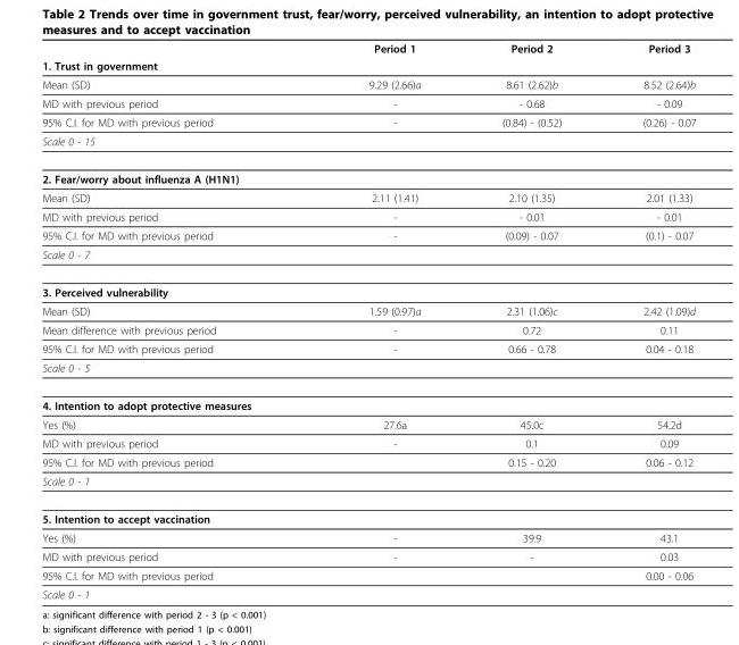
<table><thead><tr><td rowspan="2">1. Trust in government</td><td rowspan="2">Period 1</td><td rowspan="2">Period 2</td><td rowspan="2">Period 3</td></tr><tr></tr></thead><tbody><tr><td>Mean (SD)</td><td>9.29 (2.66)a</td><td>8.61 (2.62)b</td><td>8.52 (2.64)b</td></tr><tr><td>MD with previous period</td><td>-</td><td>- 0.68</td><td>- 0.09</td></tr><tr><td>95% C.I. for MD with previous period</td><td>-</td><td>(0.84) - (0.52)</td><td>(0.26) - 0.07</td></tr><tr><td colspan="4">Scale 0 - 15</td></tr><tr><td colspan="4">2. Fear/worry about influenza A (H1N1)</td></tr><tr><td>Mean (SD)</td><td>2.11 (1.41)</td><td>2.10 (1.35)</td><td>2.01 (1.33)</td></tr><tr><td>MD with previous period</td><td>-</td><td>- 0.01</td><td>- 0.01</td></tr><tr><td>95% C.I. for MD with previous period</td><td>-</td><td>(0.09) - 0.07</td><td>(0.1) - 0.07</td></tr><tr><td colspan="4">Scale 0 - 7</td></tr><tr><td colspan="4">3. Perceived vulnerability</td></tr><tr><td>Mean (SD)</td><td>1.59 (0.97)a</td><td>2.31 (1.06)c</td><td>2.42 (1.09)d</td></tr><tr><td>Mean difference with previous period</td><td>-</td><td>0.72</td><td>0.11</td></tr><tr><td>95% C.I. for MD with previous period</td><td>-</td><td>0.66 - 0.78</td><td>0.04 - 0.18</td></tr><tr><td colspan="4">Scale 0 - 5</td></tr><tr><td colspan="4">4. Intention to adopt protective measures</td></tr><tr><td>Yes (%)</td><td>27.6a</td><td>45.0c</td><td>54.2d</td></tr><tr><td>MD with previous period</td><td>-</td><td>0.1</td><td>0.09</td></tr><tr><td>95% C.I. for MD with previous period</td><td></td><td>0.15 - 0.20</td><td>0.06 - 0.12</td></tr><tr><td colspan="4">Scale 0 - 1</td></tr><tr><td colspan="4">5. Intention to accept vaccination</td></tr><tr><td>Yes (%)</td><td>-</td><td>39.9</td><td>43.1</td></tr><tr><td>MD with previous period</td><td>-</td><td>-</td><td>0.03</td></tr><tr><td>95% C.I. for MD with previous period</td><td></td><td></td><td>0.00 - 0.06</td></tr><tr><td>Scale 0 - 1</td><td></td><td></td><td></td></tr></tbody></table>